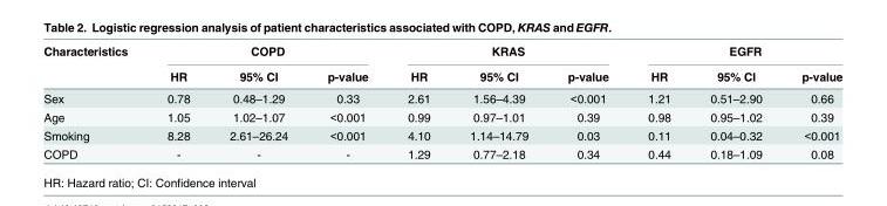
<table><thead><tr><td rowspan="2">Characteristics</td><td colspan="3">COPD</td><td colspan="3">KRAS</td><td colspan="3">EGFR</td></tr><tr><td>HR</td><td>95% CI</td><td>p-value</td><td>HR</td><td>95% CI</td><td>p-value</td><td>HR</td><td>95% CI</td><td>p-value</td></tr></thead><tbody><tr><td>Sex</td><td>0.78</td><td>0.48–1.29</td><td>0.33</td><td>2.61</td><td>1.56–4.39</td><td>&lt;0.001</td><td>1.21</td><td>0.51–2.90</td><td>0.66</td></tr><tr><td>Age</td><td>1.05</td><td>1.02–1.07</td><td>&lt;0.001</td><td>0.99</td><td>0.97–1.01</td><td>0.39</td><td>0.98</td><td>0.95–1.02</td><td>0.39</td></tr><tr><td>Smoking</td><td>8.28</td><td>2.61–26.24</td><td>&lt;0.001</td><td>4.10</td><td>1.14–14.79</td><td>0.03</td><td>0.11</td><td>0.04–0.32</td><td>&lt;0.001</td></tr><tr><td>COPD</td><td>-</td><td>-</td><td>-</td><td>1.29</td><td>0.77–2.18</td><td>0.34</td><td>0.44</td><td>0.18–1.09</td><td>0.08</td></tr></tbody></table>